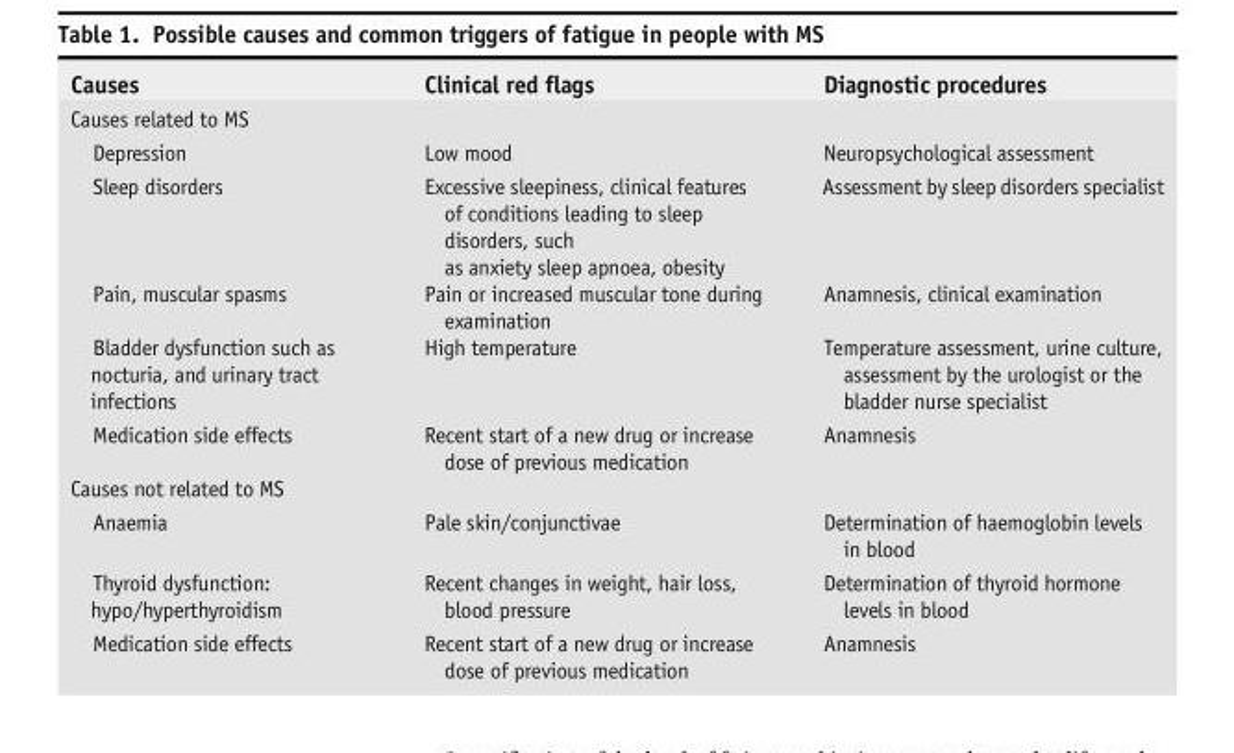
<table><thead><tr><td>Causes</td><td>Clinical red flags</td><td>Diagnostic procedures</td></tr></thead><tbody><tr><td colspan="3">Causes related to MS</td></tr><tr><td>Depression</td><td>Low mood</td><td>Neuropsychological assessment</td></tr><tr><td>Sleep disorders</td><td>Excessive sleepiness, clinical features of conditions leading to sleep disorders, such as anxiety sleep apnoea, obesity</td><td>Assessment by sleep disorders specialist</td></tr><tr><td>Pain, muscular spasms</td><td>Pain or increased muscular tone during examination</td><td>Anamnesis, clinical examination</td></tr><tr><td>Bladder dysfunction such as nocturia, and urinary tract infections</td><td>High temperature</td><td>Temperature assessment, urine culture, assessment by the urologist or the bladder nurse specialist</td></tr><tr><td>Medication side effects</td><td>Recent start of a new drug or increase dose of previous medication</td><td>Anamnesis</td></tr><tr><td colspan="3">Causes not related to MS</td></tr><tr><td>Anaemia</td><td>Pale skin/conjunctivae</td><td>Determination of haemoglobin levels in blood</td></tr><tr><td>Thyroid dysfunction: hypo/hyperthyroidism</td><td>Recent changes in weight, hair loss, blood pressure</td><td>Determination of thyroid hormone levels in blood</td></tr><tr><td>Medication side effects</td><td>Recent start of a new drug or increase dose of previous medication</td><td>Anamnesis</td></tr></tbody></table>